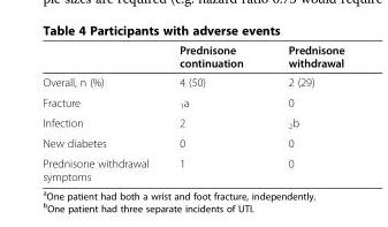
<table><thead><tr><td></td><td>Prednisone continuation</td><td>Prednisone withdrawal</td></tr></thead><tbody><tr><td>Overall, n (%)</td><td>4 (50)</td><td>2 (29)</td></tr><tr><td>Fracture</td><td><sub>1</sub>a</td><td>0</td></tr><tr><td>Infection</td><td>2</td><td><sub>2</sub>b</td></tr><tr><td>New diabetes</td><td>0</td><td>0</td></tr><tr><td>Prednisone withdrawal symptoms</td><td>1</td><td>0</td></tr></tbody></table>